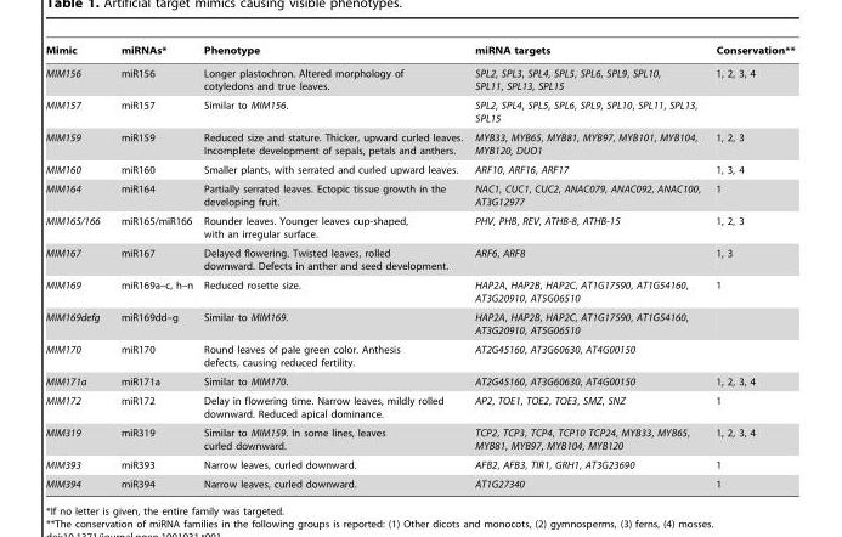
<table><thead><tr><td>Mimic</td><td>miRNAs*</td><td>Phenotype</td><td>miRNA targets</td><td>Conservation**</td></tr></thead><tbody><tr><td>MIM156</td><td>miR156</td><td>Longer plastochron. Altered morphology of cotyledons and true leaves.</td><td>SPL2, SPL3, SPL4, SPL5, SPL6, SPL9, SPL10, SPL11, SPL13, SPL15</td><td>1, 2, 3, 4</td></tr><tr><td>MIM157</td><td>miR157</td><td>Similar to MIM156.</td><td>SPL2, SPL4, SPL5, SPL6, SPL9, SPL10, SPL11, SPL13, SPL15</td><td></td></tr><tr><td>MIM159</td><td>miR159</td><td>Reduced size and stature. Thicker, upward curled leaves. Incomplete development of sepals, petals and anthers.</td><td>MYB33, MYB65, MYB81, MYB97, MYB101, MYB104, MYB120, DUO1</td><td>1, 2, 3</td></tr><tr><td>MIM160</td><td>miR160</td><td>Smaller plants, with serrated and curled upward leaves.</td><td>ARF10, ARF16, ARF17</td><td>1, 3, 4</td></tr><tr><td>MIM164</td><td>miR164</td><td>Partially serrated leaves. Ectopic tissue growth in the developing fruit.</td><td>NAC1, CUC1, CUC2, ANAC079, ANAC092, ANAC100, AT3G12977</td><td>1</td></tr><tr><td>MIM165/166</td><td>miR165/miR166</td><td>Rounder leaves. Younger leaves cup-shaped, with an irregular surface.</td><td>PHV, PHB, REV, ATHB-8, ATHB-15</td><td>1, 2, 3</td></tr><tr><td>MIM167</td><td>miR167</td><td>Delayed flowering. Twisted leaves, rolled downward. Defects in anther and seed development.</td><td>ARF6, ARF8</td><td>1, 3</td></tr><tr><td>MIM169</td><td>miR169a–c, h–n</td><td>Reduced rosette size.</td><td>HAP2A, HAP2B, HAP2C, AT1G17590, AT1G54160, AT3G20910, AT5G06510</td><td>1</td></tr><tr><td>MIM169defg</td><td>miR169dd–g</td><td>Similar to MIM169.</td><td>HAP2A, HAP2B, HAP2C, AT1G17590, AT1G54160, AT3G20910, AT5G06510</td><td></td></tr><tr><td>MIM170</td><td>miR170</td><td>Round leaves of pale green color. Anthesis defects, causing reduced fertility.</td><td>AT2G45160, AT3G60630, AT4G00150</td><td></td></tr><tr><td>MIM171a</td><td>miR171a</td><td>Similar to MIM170.</td><td>AT2G45160, AT3G60630, AT4G00150</td><td>1, 2, 3, 4</td></tr><tr><td>MIM172</td><td>miR172</td><td>Delay in flowering time. Narrow leaves, mildly rolled downward. Reduced apical dominance.</td><td>AP2, TOE1, TOE2, TOE3, SMZ, SNZ</td><td>1</td></tr><tr><td>MIM319</td><td>miR319</td><td>Similar to MIM159. In some lines, leaves curled downward.</td><td>TCP2, TCP3, TCP4, TCP10 TCP24, MYB33, MYB65, MYB81, MYB97, MYB104, MYB120</td><td>1, 2, 3, 4</td></tr><tr><td>MIM393</td><td>miR393</td><td>Narrow leaves, curled downward.</td><td>AFB2, AFB3, TIR1, GRH1, AT3G23690</td><td>1</td></tr><tr><td>MIM394</td><td>miR394</td><td>Narrow leaves, curled downward.</td><td>AT1G27340</td><td>1</td></tr></tbody></table>